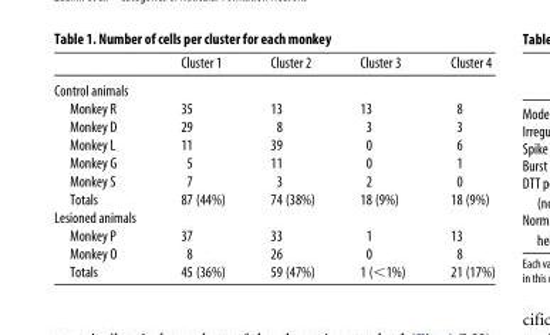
<table><thead><tr><td></td><td>Cluster 1</td><td>Cluster 2</td><td>Cluster 3</td><td>Cluster 4</td></tr></thead><tbody><tr><td colspan="5">Control animals</td></tr><tr><td>Monkey R</td><td>35</td><td>13</td><td>13</td><td>8</td></tr><tr><td>Monkey D</td><td>29</td><td>8</td><td>3</td><td>3</td></tr><tr><td>Monkey L</td><td>11</td><td>39</td><td>0</td><td>6</td></tr><tr><td>Monkey G</td><td>5</td><td>11</td><td>0</td><td>1</td></tr><tr><td>Monkey S</td><td>7</td><td>3</td><td>2</td><td>0</td></tr><tr><td>Totals</td><td>87 (44%)</td><td>74 (38%)</td><td>18 (9%)</td><td>18 (9%)</td></tr><tr><td colspan="5">Lesioned animals</td></tr><tr><td>Monkey P</td><td>37</td><td>33</td><td>1</td><td>13</td></tr><tr><td>Monkey O</td><td>8</td><td>26</td><td>0</td><td>8</td></tr><tr><td>Totals</td><td>45 (36%)</td><td>59 (47%)</td><td>1 (&lt;1%)</td><td>21 (17%)</td></tr></tbody></table>